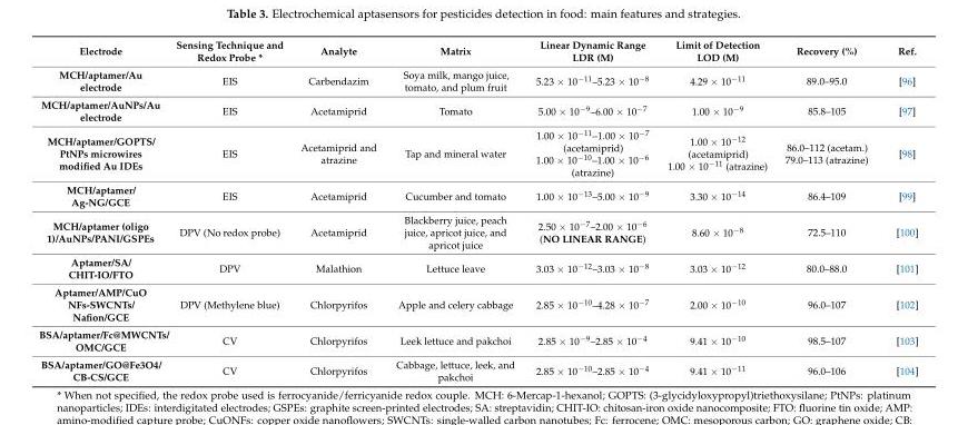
<table><thead><tr><td>Electrode</td><td>Sensing Technique and Redox Probe *</td><td>Analyte</td><td>Matrix</td><td>Linear Dynamic Range LDR (M)</td><td>Limit of Detection LOD (M)</td><td>Recovery (%)</td><td>Ref.</td></tr></thead><tbody><tr><td>MCH/aptamer/Au electrode</td><td>EIS</td><td>Carbendazim</td><td>Soya milk, mango juice, tomato, and plum fruit</td><td>5.23 × 10<sup>−11</sup>–5.23 × 10<sup>−8</sup></td><td>4.29 × 10<sup>−11</sup></td><td>89.0–95.0</td><td>[96]</td></tr><tr><td>MCH/aptamer/AuNPs/Au electrode</td><td>EIS</td><td>Acetamiprid</td><td>Tomato</td><td>5.00 × 10<sup>−9</sup>–6.00 × 10<sup>−7</sup></td><td>1.00 × 10<sup>−9</sup></td><td>85.8–105</td><td>[97]</td></tr><tr><td>MCH/aptamer/GOPTS/ PtNPs microwires modified Au IDEs</td><td>EIS</td><td>Acetamiprid and atrazine</td><td>Tap and mineral water</td><td>1.00 × 10<sup>−11</sup>–1.00 × 10<sup>−7</sup> (acetamiprid) 1.00 × 10<sup>−10</sup>–1.00 × 10<sup>−6</sup> (atrazine)</td><td>1.00 × 10<sup>−12</sup> (acetamiprid) 1.00 × 10<sup>−11</sup> (atrazine)</td><td>86.0–112 (acetam.) 79.0–113 (atrazine)</td><td>[98]</td></tr><tr><td>MCH/aptamer/ Ag-NG/GCE</td><td>EIS</td><td>Acetamiprid</td><td>Cucumber and tomato</td><td>1.00 × 10<sup>−13</sup>–5.00 × 10<sup>−9</sup></td><td>3.30 × 10<sup>−14</sup></td><td>86.4–109</td><td>[99]</td></tr><tr><td>MCH/aptamer (oligo 1)/AuNPs/PANI/GSPEs</td><td>DPV (No redox probe)</td><td>Acetamiprid</td><td>Blackberry juice, peach juice, apricot juice, and apricot juice</td><td>2.50 × 10<sup>−7</sup>–2.00 × 10<sup>−6</sup> (NO LINEAR RANGE)</td><td>8.60 × 10<sup>−8</sup></td><td>72.5–110</td><td>[100]</td></tr><tr><td>Aptamer/SA/ CHIT-IO/FTO</td><td>DPV</td><td>Malathion</td><td>Lettuce leave</td><td>3.03 × 10<sup>−12</sup>–3.03 × 10<sup>−8</sup></td><td>3.03 × 10<sup>−12</sup></td><td>80.0–88.0</td><td>[101]</td></tr><tr><td>Aptamer/AMP/CuO NFs-SWCNTs/ Nafion/GCE</td><td>DPV (Methylene blue)</td><td>Chlorpyrifos</td><td>Apple and celery cabbage</td><td>2.85 × 10<sup>−10</sup>–4.28 × 10<sup>−7</sup></td><td>2.00 × 10<sup>−10</sup></td><td>96.0–107</td><td>[102]</td></tr><tr><td>BSA/aptamer/Fc@MWCNTs/ OMC/GCE</td><td>CV</td><td>Chlorpyrifos</td><td>Leek lettuce and pakchoi</td><td>2.85 × 10<sup>−9</sup>–2.85 × 10<sup>−4</sup></td><td>9.41 × 10<sup>−10</sup></td><td>98.5–107</td><td>[103]</td></tr><tr><td>BSA/aptamer/GO@Fe3O4/ CB-CS/GCE</td><td>CV</td><td>Chlorpyrifos</td><td>Cabbage, lettuce, leek, and pakchoi</td><td>2.85 × 10<sup>−10</sup>–2.85 × 10<sup>−4</sup></td><td>9.41 × 10<sup>−11</sup></td><td>96.0–106</td><td>[104]</td></tr></tbody></table>